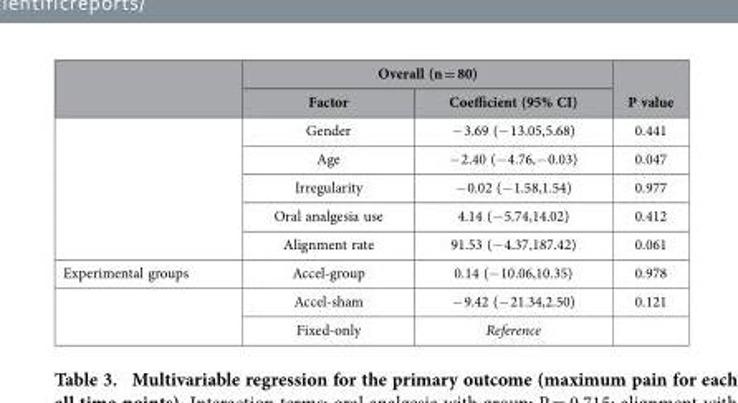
<table><thead><tr><td rowspan="2"></td><td colspan="2">Overall (n = 80)</td><td rowspan="2">P value</td></tr><tr><td>Factor</td><td>Coefficient (95% CI)</td></tr></thead><tbody><tr><td rowspan="5"></td><td>Gender</td><td>− 3.69 (− 13.05,5.68)</td><td>0.441</td></tr><tr><td>Age</td><td>− 2.40 (− 4.76,− 0.03)</td><td>0.047</td></tr><tr><td>Irregularity</td><td>− 0.02 (− 1.58,1.54)</td><td>0.977</td></tr><tr><td>Oral analgesia use</td><td>4.14 (− 5.74,14.02)</td><td>0.412</td></tr><tr><td>Alignment rate</td><td>91.53 (− 4.37,187.42)</td><td>0.061</td></tr><tr><td rowspan="3">Experimental groups</td><td>Accel-group</td><td>0.14 (− 10.06,10.35)</td><td>0.978</td></tr><tr><td>Accel-sham</td><td>− 9.42 (− 21.34,2.50)</td><td>0.121</td></tr><tr><td>Fixed-only</td><td>Reference</td><td></td></tr></tbody></table>